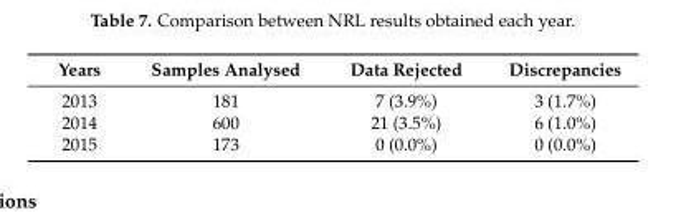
<table><thead><tr><td>Years</td><td>Samples Analysed</td><td>Data Rejected</td><td>Discrepancies</td></tr></thead><tbody><tr><td>2013</td><td>181</td><td>7 (3.9%)</td><td>3 (1.7%)</td></tr><tr><td>2014</td><td>600</td><td>21 (3.5%)</td><td>6 (1.0%)</td></tr><tr><td>2015</td><td>173</td><td>0 (0.0%)</td><td>0 (0.0%)</td></tr></tbody></table>